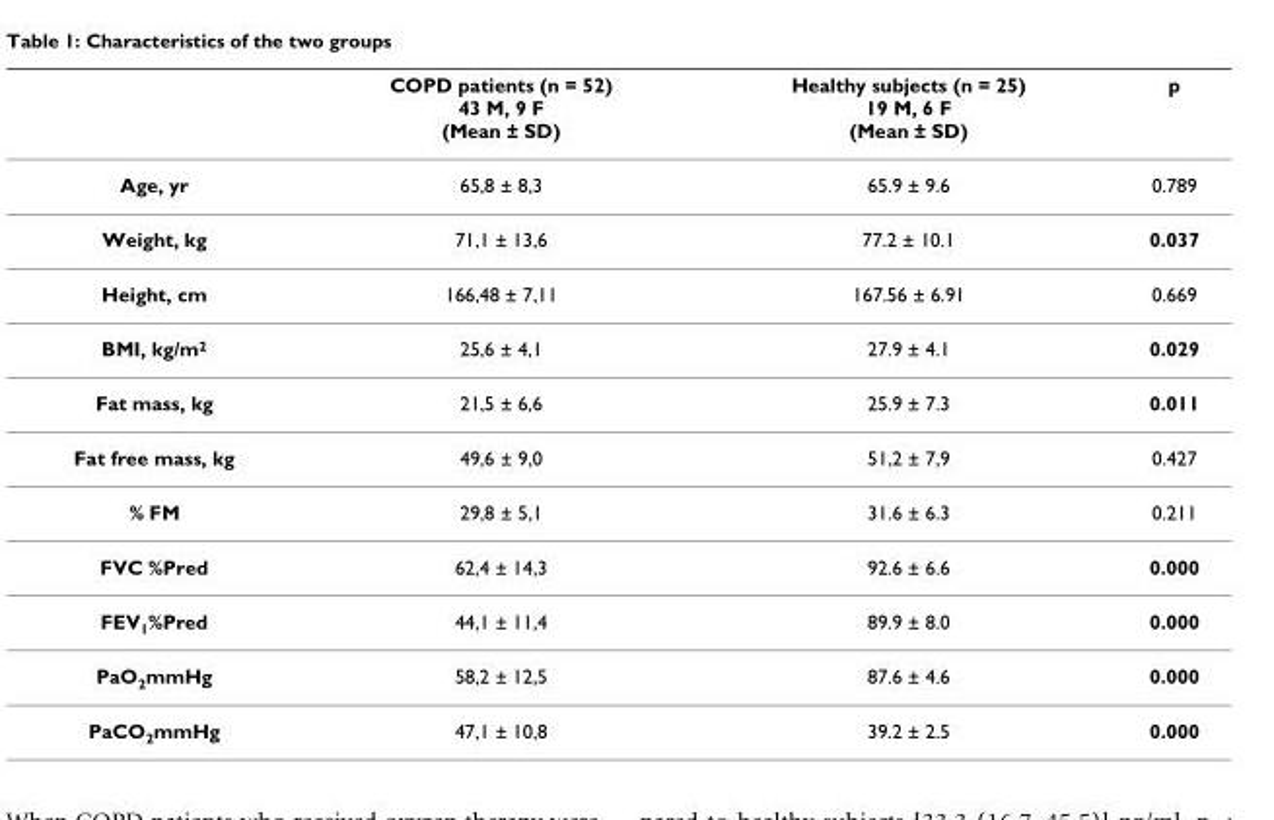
<table><thead><tr><td></td><td>COPD patients (n = 52) 43 M, 9 F (Mean ± SD)</td><td>Healthy subjects (n = 25) 19 M, 6 F (Mean ± SD)</td><td>p</td></tr></thead><tbody><tr><td>Age, yr</td><td>65,8 ± 8,3</td><td>65.9 ± 9.6</td><td>0.789</td></tr><tr><td>Weight, kg</td><td>71,1 ± 13,6</td><td>77.2 ± 10.1</td><td>0.037</td></tr><tr><td>Height, cm</td><td>166,48 ± 7,11</td><td>167.56 ± 6.91</td><td>0.669</td></tr><tr><td>BMI, kg/m<sup>2</sup></td><td>25,6 ± 4,1</td><td>27.9 ± 4.1</td><td>0.029</td></tr><tr><td>Fat mass, kg</td><td>21,5 ± 6,6</td><td>25.9 ± 7.3</td><td>0.011</td></tr><tr><td>Fat free mass, kg</td><td>49,6 ± 9,0</td><td>51,2 ± 7,9</td><td>0.427</td></tr><tr><td>% FM</td><td>29,8 ± 5,1</td><td>31.6 ± 6.3</td><td>0.211</td></tr><tr><td>FVC %Pred</td><td>62,4 ± 14,3</td><td>92.6 ± 6.6</td><td>0.000</td></tr><tr><td>FEV<sub>1</sub>%Pred</td><td>44,1 ± 11,4</td><td>89.9 ± 8.0</td><td>0.000</td></tr><tr><td>PaO<sub>2</sub>mmHg</td><td>58,2 ± 12,5</td><td>87.6 ± 4.6</td><td>0.000</td></tr><tr><td>PaCO<sub>2</sub>mmHg</td><td>47,1 ± 10,8</td><td>39.2 ± 2.5</td><td>0.000</td></tr></tbody></table>